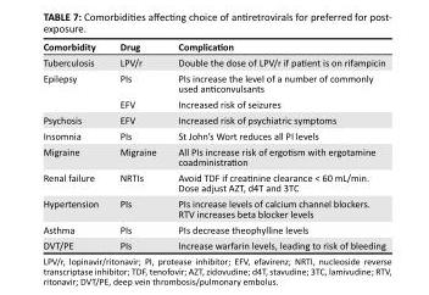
<table><thead><tr><td>Comorbidity</td><td>Drug</td><td>Complication</td></tr></thead><tbody><tr><td>Tuberculosis</td><td>LPV/r</td><td>Double the dose of LPV/r if patient is on rifampicin</td></tr><tr><td rowspan="2">Epilepsy</td><td>PIs</td><td>PIs increase the level of a number of commonly used anticonvulsants</td></tr><tr><td>EFV</td><td>Increased risk of seizures</td></tr><tr><td>Psychosis</td><td>EFV</td><td>Increased risk of psychiatric symptoms</td></tr><tr><td>Insomnia</td><td>PIs</td><td>St John’s Wort reduces all PI levels</td></tr><tr><td>Migraine</td><td>Migraine</td><td>All PIs increase risk of ergotism with ergotamine coadministration</td></tr><tr><td>Renal failure</td><td>NRTIs</td><td>Avoid TDF if creatinine clearance &lt; 60 mL/min. Dose adjust AZT, d4T and 3TC</td></tr><tr><td>Hypertension</td><td>PIs</td><td>PIs increase levels of calcium channel blockers. RTV increases beta blocker levels</td></tr><tr><td>Asthma</td><td>PIs</td><td>PIs decrease theophylline levels</td></tr><tr><td>DVT/PE</td><td>PIs</td><td>Increase warfarin levels, leading to risk of bleeding</td></tr></tbody></table>